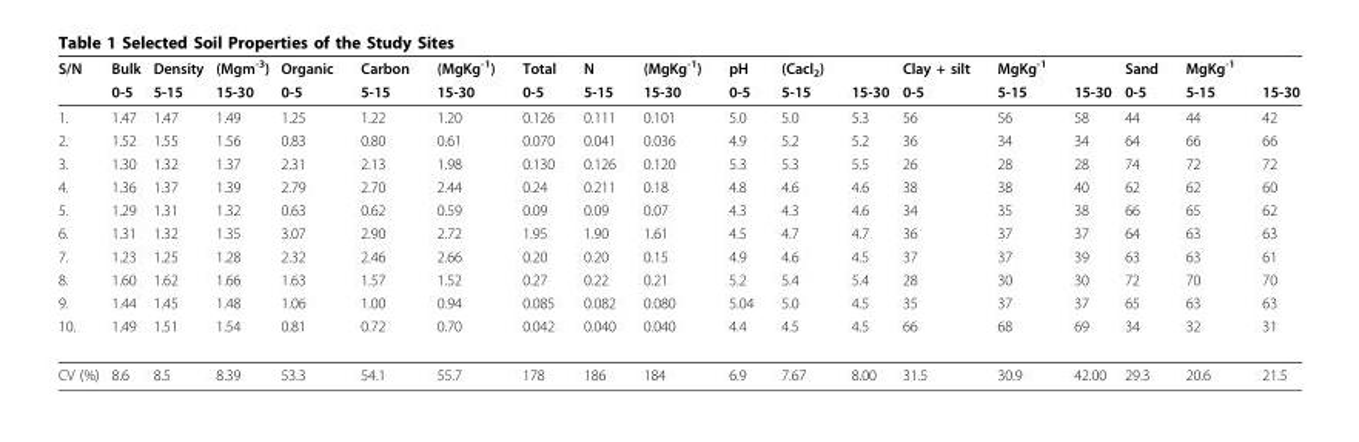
<table><thead><tr><td rowspan="2">S/N</td><td rowspan="2">Bulk 0-5</td><td rowspan="2">Density 5-15</td><td rowspan="2">(Mgm<sup>-3</sup>) 15-30</td><td rowspan="2">Organic 0-5</td><td rowspan="2">Carbon 5-15</td><td rowspan="2">(MgKg<sup>-1</sup>) 15-30</td><td rowspan="2">Total 0-5</td><td rowspan="2">N 5-15</td><td rowspan="2">(MgKg<sup>-1</sup>) 15-30</td><td rowspan="2">pH 0-5</td><td rowspan="2">(Cacl<sub>2</sub>) 5-15</td><td rowspan="2">15-30</td><td rowspan="2">Clay + silt 0-5</td><td rowspan="2">MgKg<sup>-1</sup> 5-15</td><td rowspan="2">15-30</td><td rowspan="2">Sand 0-5</td><td rowspan="2">MgKg<sup>-1</sup> 5-15</td><td rowspan="2">15-30</td></tr><tr></tr></thead><tbody><tr><td>1.</td><td>1.47</td><td>1.47</td><td>1.49</td><td>1.25</td><td>1.22</td><td>1.20</td><td>0.126</td><td>0.111</td><td>0.101</td><td>5.0</td><td>5.0</td><td>5.3</td><td>56</td><td>56</td><td>58</td><td>44</td><td>44</td><td>42</td></tr><tr><td>2.</td><td>1.52</td><td>1.55</td><td>1.56</td><td>0.83</td><td>0.80</td><td>0.61</td><td>0.070</td><td>0.041</td><td>0.036</td><td>4.9</td><td>5.2</td><td>5.2</td><td>36</td><td>34</td><td>34</td><td>64</td><td>66</td><td>66</td></tr><tr><td>3.</td><td>1.30</td><td>1.32</td><td>1.37</td><td>2.31</td><td>2.13</td><td>1.98</td><td>0.130</td><td>0.126</td><td>0.120</td><td>5.3</td><td>5.3</td><td>5.5</td><td>26</td><td>28</td><td>28</td><td>74</td><td>72</td><td>72</td></tr><tr><td>4.</td><td>1.36</td><td>1.37</td><td>1.39</td><td>2.79</td><td>2.70</td><td>2.44</td><td>0.24</td><td>0.211</td><td>0.18</td><td>4.8</td><td>4.6</td><td>4.6</td><td>38</td><td>38</td><td>40</td><td>62</td><td>62</td><td>60</td></tr><tr><td>5.</td><td>1.29</td><td>1.31</td><td>1.32</td><td>0.63</td><td>0.62</td><td>0.59</td><td>0.09</td><td>0.09</td><td>0.07</td><td>4.3</td><td>4.3</td><td>4.6</td><td>34</td><td>35</td><td>38</td><td>66</td><td>65</td><td>62</td></tr><tr><td>6.</td><td>1.31</td><td>1.32</td><td>1.35</td><td>3.07</td><td>2.90</td><td>2.72</td><td>1.95</td><td>1.90</td><td>1.61</td><td>4.5</td><td>4.7</td><td>4.7</td><td>36</td><td>37</td><td>37</td><td>64</td><td>63</td><td>63</td></tr><tr><td>7.</td><td>1.23</td><td>1.25</td><td>1.28</td><td>2.32</td><td>2.46</td><td>2.66</td><td>0.20</td><td>0.20</td><td>0.15</td><td>4.9</td><td>4.6</td><td>4.5</td><td>37</td><td>37</td><td>39</td><td>63</td><td>63</td><td>61</td></tr><tr><td>8.</td><td>1.60</td><td>1.62</td><td>1.66</td><td>1.63</td><td>1.57</td><td>1.52</td><td>0.27</td><td>0.22</td><td>0.21</td><td>5.2</td><td>5.4</td><td>5.4</td><td>28</td><td>30</td><td>30</td><td>72</td><td>70</td><td>70</td></tr><tr><td>9.</td><td>1.44</td><td>1.45</td><td>1.48</td><td>1.06</td><td>1.00</td><td>0.94</td><td>0.085</td><td>0.082</td><td>0.080</td><td>5.04</td><td>5.0</td><td>4.5</td><td>35</td><td>37</td><td>37</td><td>65</td><td>63</td><td>63</td></tr><tr><td>10.</td><td>1.49</td><td>1.51</td><td>1.54</td><td>0.81</td><td>0.72</td><td>0.70</td><td>0.042</td><td>0.040</td><td>0.040</td><td>4.4</td><td>4.5</td><td>4.5</td><td>66</td><td>68</td><td>69</td><td>34</td><td>32</td><td>31</td></tr><tr><td>CV (%)</td><td>8.6</td><td>8.5</td><td>8.39</td><td>53.3</td><td>54.1</td><td>55.7</td><td>178</td><td>186</td><td>184</td><td>6.9</td><td>7.67</td><td>8.00</td><td>31.5</td><td>30.9</td><td>42.00</td><td>29.3</td><td>20.6</td><td>21.5</td></tr></tbody></table>